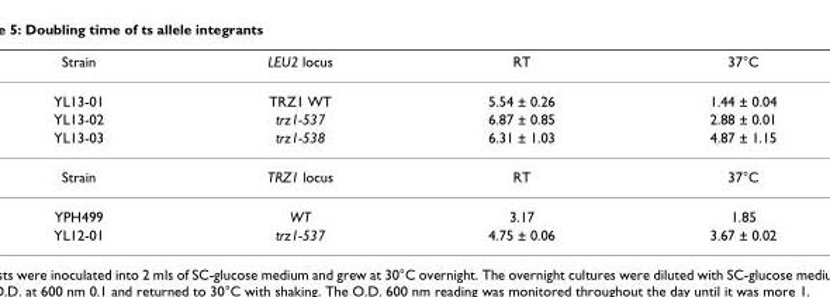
<table><thead><tr><td>Strain</td><td>LEU2 locus</td><td>RT</td><td>37°C</td></tr></thead><tbody><tr><td>YL13-01</td><td>TRZ1 WT</td><td>5.54 ± 0.26</td><td>1.44 ± 0.04</td></tr><tr><td>YL13-02</td><td>trz1-537</td><td>6.87 ± 0.85</td><td>2.88 ± 0.01</td></tr><tr><td>YL13-03</td><td>trz1-538</td><td>6.31 ± 1.03</td><td>4.87 ± 1.15</td></tr><tr><td>Strain</td><td>TRZ1 locus</td><td>RT</td><td>37°C</td></tr><tr><td>YPH499</td><td>WT</td><td>3.17</td><td>1.85</td></tr><tr><td>YL12-01</td><td>trz1-537</td><td>4.75 ± 0.06</td><td>3.67 ± 0.02</td></tr></tbody></table>